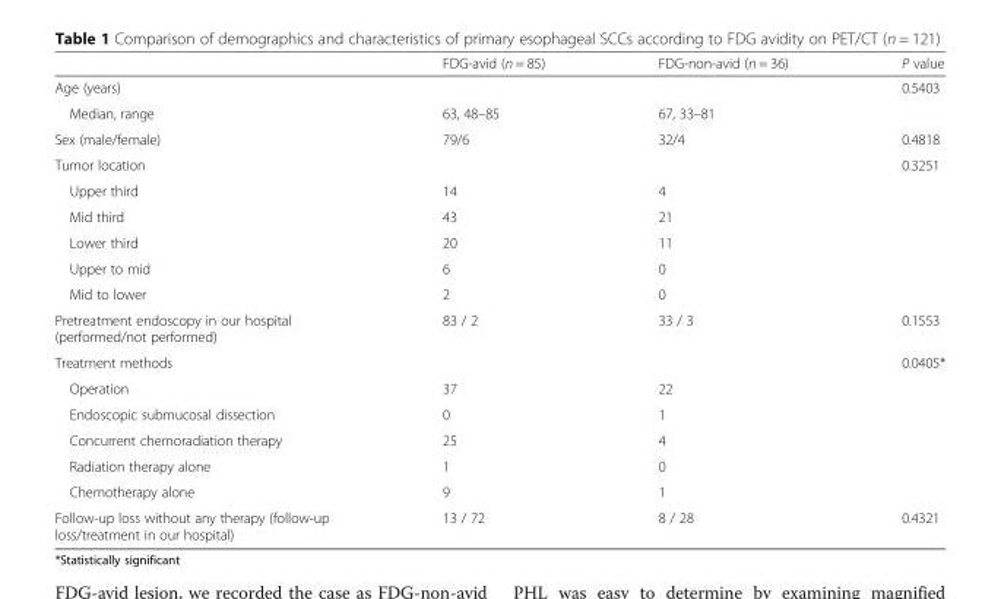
<table><thead><tr><td></td><td>FDG-avid (n = 85)</td><td>FDG-non-avid (n = 36)</td><td>P value</td></tr></thead><tbody><tr><td colspan="3">Age (years)</td><td>0.5403</td></tr><tr><td>Median, range</td><td>63, 48–85</td><td>67, 33–81</td><td></td></tr><tr><td>Sex (male/female)</td><td>79/6</td><td>32/4</td><td>0.4818</td></tr><tr><td colspan="3">Tumor location</td><td>0.3251</td></tr><tr><td>Upper third</td><td>14</td><td>4</td><td rowspan="5"></td></tr><tr><td>Mid third</td><td>43</td><td>21</td></tr><tr><td>Lower third</td><td>20</td><td>11</td></tr><tr><td>Upper to mid</td><td>6</td><td>0</td></tr><tr><td>Mid to lower</td><td>2</td><td>0</td></tr><tr><td>Pretreatment endoscopy in our hospital (performed/not performed)</td><td>83 / 2</td><td>33 / 3</td><td>0.1553</td></tr><tr><td colspan="3">Treatment methods</td><td>0.0405*</td></tr><tr><td>Operation</td><td>37</td><td>22</td><td></td></tr><tr><td>Endoscopic submucosal dissection</td><td>0</td><td>1</td><td></td></tr><tr><td>Concurrent chemoradiation therapy</td><td>25</td><td>4</td><td></td></tr><tr><td>Radiation therapy alone</td><td>1</td><td>0</td><td></td></tr><tr><td>Chemotherapy alone</td><td>9</td><td>1</td><td></td></tr><tr><td>Follow-up loss without any therapy (follow-up loss/treatment in our hospital)</td><td>13 / 72</td><td>8 / 28</td><td>0.4321</td></tr></tbody></table>